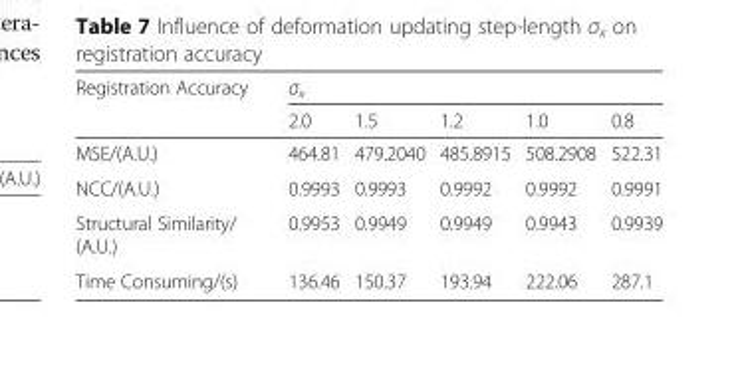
<table><thead><tr><td rowspan="2">Registration Accuracy</td><td colspan="5">σ<sub>x</sub></td></tr><tr><td>2.0</td><td>1.5</td><td>1.2</td><td>1.0</td><td>0.8</td></tr></thead><tbody><tr><td>MSE/(A.U.)</td><td>464.81</td><td>479.2040</td><td>485.8915</td><td>508.2908</td><td>522.31</td></tr><tr><td>NCC/(A.U.)</td><td>0.9993</td><td>0.9993</td><td>0.9992</td><td>0.9992</td><td>0.9991</td></tr><tr><td>Structural Similarity/ (A.U.)</td><td>0.9953</td><td>0.9949</td><td>0.9949</td><td>0.9943</td><td>0.9939</td></tr><tr><td>Time Consuming/(s)</td><td>136.46</td><td>150.37</td><td>193.94</td><td>222.06</td><td>287.1</td></tr></tbody></table>